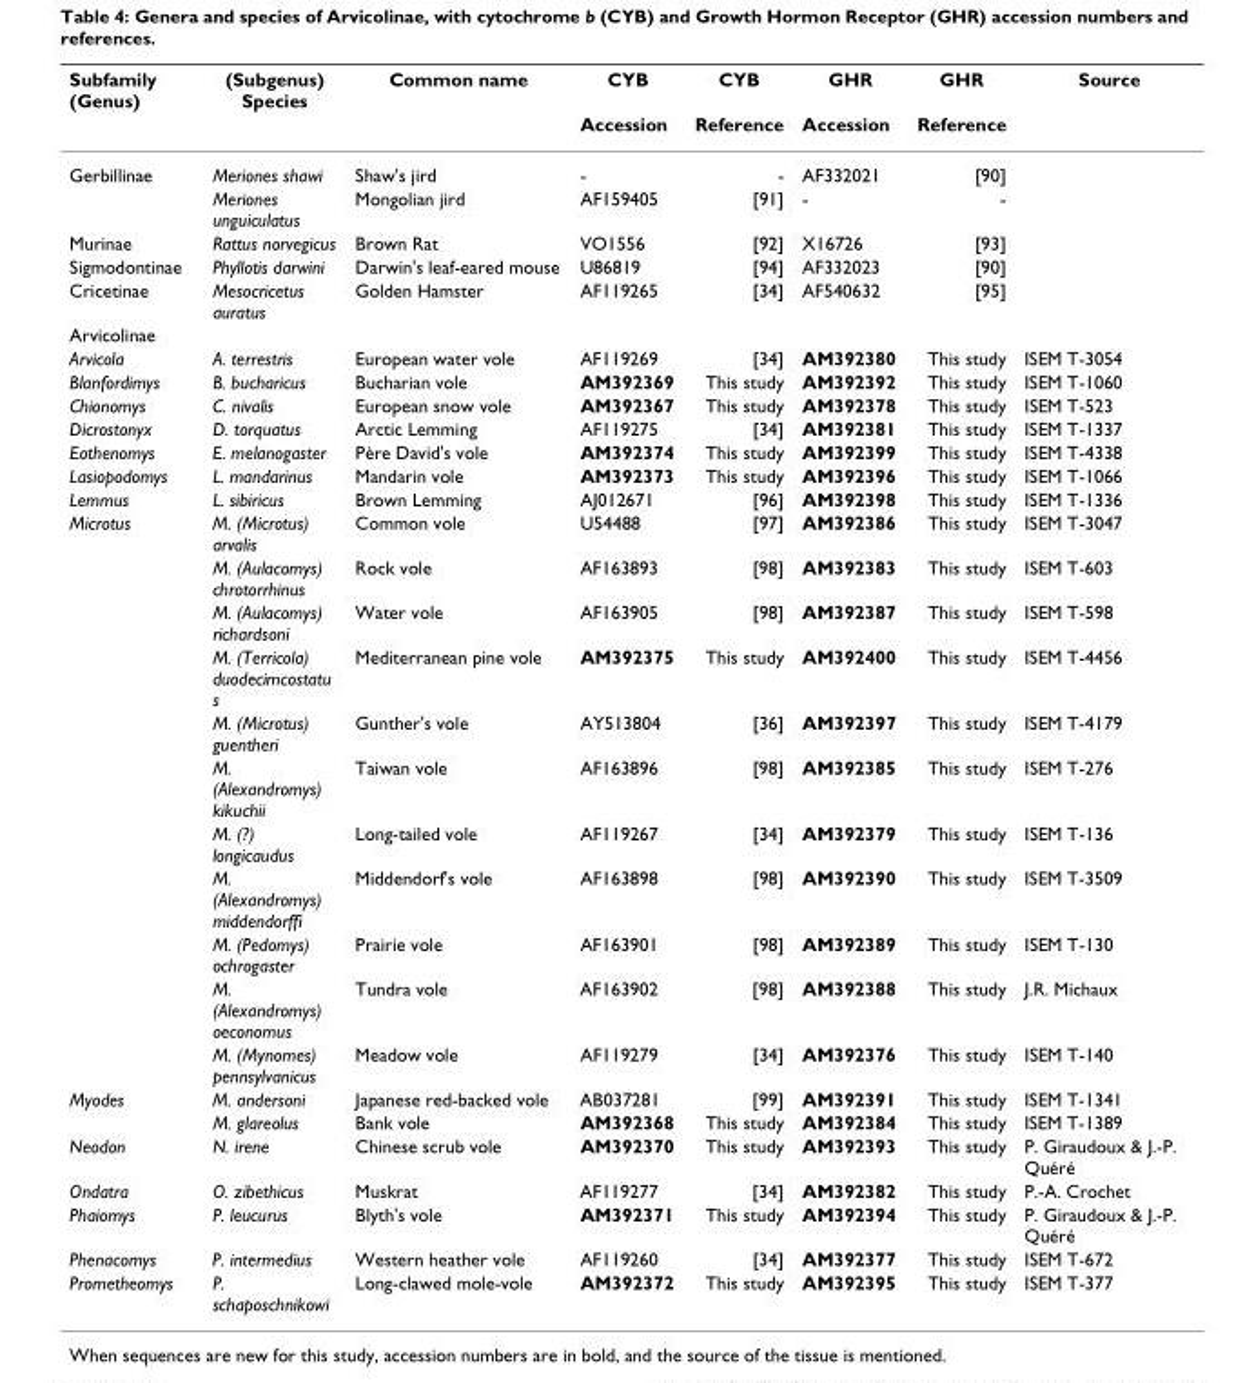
<table><thead><tr><td rowspan="2">Subfamily (Genus)</td><td rowspan="2">(Subgenus) Species</td><td rowspan="2">Common name</td><td rowspan="2">CYB Accession</td><td rowspan="2">CYB Reference</td><td rowspan="2">GHR Accession</td><td rowspan="2">GHR Reference</td><td rowspan="2">Source</td></tr><tr></tr></thead><tbody><tr><td rowspan="2">Gerbillinae</td><td>Meriones shawi</td><td>Shaw&#x27;s jird</td><td>-</td><td>-</td><td>AF332021</td><td>[90]</td><td></td></tr><tr><td>Meriones unguiculatus</td><td>Mongolian jird</td><td>AF159405</td><td>[91]</td><td>-</td><td>-</td><td></td></tr><tr><td>Murinae</td><td>Rattus norvegicus</td><td>Brown Rat</td><td>VO1556</td><td>[92]</td><td>X16726</td><td>[93]</td><td></td></tr><tr><td>Sigmodontinae</td><td>Phyllotis darwini</td><td>Darwin&#x27;s leaf-eared mouse</td><td>U86819</td><td>[94]</td><td>AF332023</td><td>[90]</td><td></td></tr><tr><td>Cricetinae</td><td>Mesocricetus auratus</td><td>Golden Hamster</td><td>AF119265</td><td>[34]</td><td>AF540632</td><td>[95]</td><td></td></tr><tr><td colspan="8">Arvicolinae</td></tr><tr><td>Arvicola</td><td>A. terrestris</td><td>European water vole</td><td>AF119269</td><td>[34]</td><td>AM392380</td><td>This study</td><td>ISEM T-3054</td></tr><tr><td>Blanfordimys</td><td>B. bucharicus</td><td>Bucharian vole</td><td>AM392369</td><td>This study</td><td>AM392392</td><td>This study</td><td>ISEM T-1060</td></tr><tr><td>Chionomys</td><td>C. nivalis</td><td>European snow vole</td><td>AM392367</td><td>This study</td><td>AM392378</td><td>This study</td><td>ISEM T-523</td></tr><tr><td>Dicrostonyx</td><td>D. torquatus</td><td>Arctic Lemming</td><td>AF119275</td><td>[34]</td><td>AM392381</td><td>This study</td><td>ISEM T-1337</td></tr><tr><td>Eothenomys</td><td>E. melanogaster</td><td>Père David&#x27;s vole</td><td>AM392374</td><td>This study</td><td>AM392399</td><td>This study</td><td>ISEM T-4338</td></tr><tr><td>Lasiopodomys</td><td>L. mandarinus</td><td>Mandarin vole</td><td>AM392373</td><td>This study</td><td>AM392396</td><td>This study</td><td>ISEM T-1066</td></tr><tr><td>Lemmus</td><td>L. sibiricus</td><td>Brown Lemming</td><td>AJ012671</td><td>[96]</td><td>AM392398</td><td>This study</td><td>ISEM T-1336</td></tr><tr><td rowspan="11">Microtus</td><td>M. (Microtus) arvalis</td><td>Common vole</td><td>U54488</td><td>[97]</td><td>AM392386</td><td>This study</td><td>ISEM T-3047</td></tr><tr><td>M. (Aulacomys) chrotorrhinus</td><td>Rock vole</td><td>AF163893</td><td>[98]</td><td>AM392383</td><td>This study</td><td>ISEM T-603</td></tr><tr><td>M. (Aulacomys) richardsoni</td><td>Water vole</td><td>AF163905</td><td>[98]</td><td>AM392387</td><td>This study</td><td>ISEM T-598</td></tr><tr><td>M. (Terricola) duodecimcostatu s</td><td>Mediterranean pine vole</td><td>AM392375</td><td>This study</td><td>AM392400</td><td>This study</td><td>ISEM T-4456</td></tr><tr><td>M. (Microtus) guentheri</td><td>Gunther&#x27;s vole</td><td>AY513804</td><td>[36]</td><td>AM392397</td><td>This study</td><td>ISEM T-4179</td></tr><tr><td>M. (Alexandromys) kikuchii</td><td>Taiwan vole</td><td>AF163896</td><td>[98]</td><td>AM392385</td><td>This study</td><td>ISEM T-276</td></tr><tr><td>M. (?) longicaudus</td><td>Long-tailed vole</td><td>AF119267</td><td>[34]</td><td>AM392379</td><td>This study</td><td>ISEM T-136</td></tr><tr><td>M. (Alexandromys) middendorffi</td><td>Middendorf&#x27;s vole</td><td>AF163898</td><td>[98]</td><td>AM392390</td><td>This study</td><td>ISEM T-3509</td></tr><tr><td>M. (Pedomys) ochrogaster</td><td>Prairie vole</td><td>AF163901</td><td>[98]</td><td>AM392389</td><td>This study</td><td>ISEM T-130</td></tr><tr><td>M. (Alexandromys) oeconomus</td><td>Tundra vole</td><td>AF163902</td><td>[98]</td><td>AM392388</td><td>This study</td><td>J.R. Michaux</td></tr><tr><td>M. (Mynomes) pennsylvanicus</td><td>Meadow vole</td><td>AF119279</td><td>[34]</td><td>AM392376</td><td>This study</td><td>ISEM T-140</td></tr><tr><td rowspan="2">Myodes</td><td>M. andersoni</td><td>Japanese red-backed vole</td><td>AB037281</td><td>[99]</td><td>AM392391</td><td>This study</td><td>ISEM T-1341</td></tr><tr><td>M. glareolus</td><td>Bank vole</td><td>AM392368</td><td>This study</td><td>AM392384</td><td>This study</td><td>ISEM T-1389</td></tr><tr><td>Neodon</td><td>N. irene</td><td>Chinese scrub vole</td><td>AM392370</td><td>This study</td><td>AM392393</td><td>This study</td><td>P. Giraudoux &amp; J.-P. Quéré</td></tr><tr><td>Ondatra</td><td>O. zibethicus</td><td>Muskrat</td><td>AF119277</td><td>[34]</td><td>AM392382</td><td>This study</td><td>P.-A. Crochet</td></tr><tr><td>Phaiomys</td><td>P. leucurus</td><td>Blyth&#x27;s vole</td><td>AM392371</td><td>This study</td><td>AM392394</td><td>This study</td><td>P. Giraudoux &amp; J.-P. Quéré</td></tr><tr><td>Phenacomys</td><td>P. intermedius</td><td>Western heather vole</td><td>AF119260</td><td>[34]</td><td>AM392377</td><td>This study</td><td>ISEM T-672</td></tr><tr><td>Prometheomys</td><td>P. schaposchnikowi</td><td>Long-clawed mole-vole</td><td>AM392372</td><td>This study</td><td>AM392395</td><td>This study</td><td>ISEM T-377</td></tr></tbody></table>